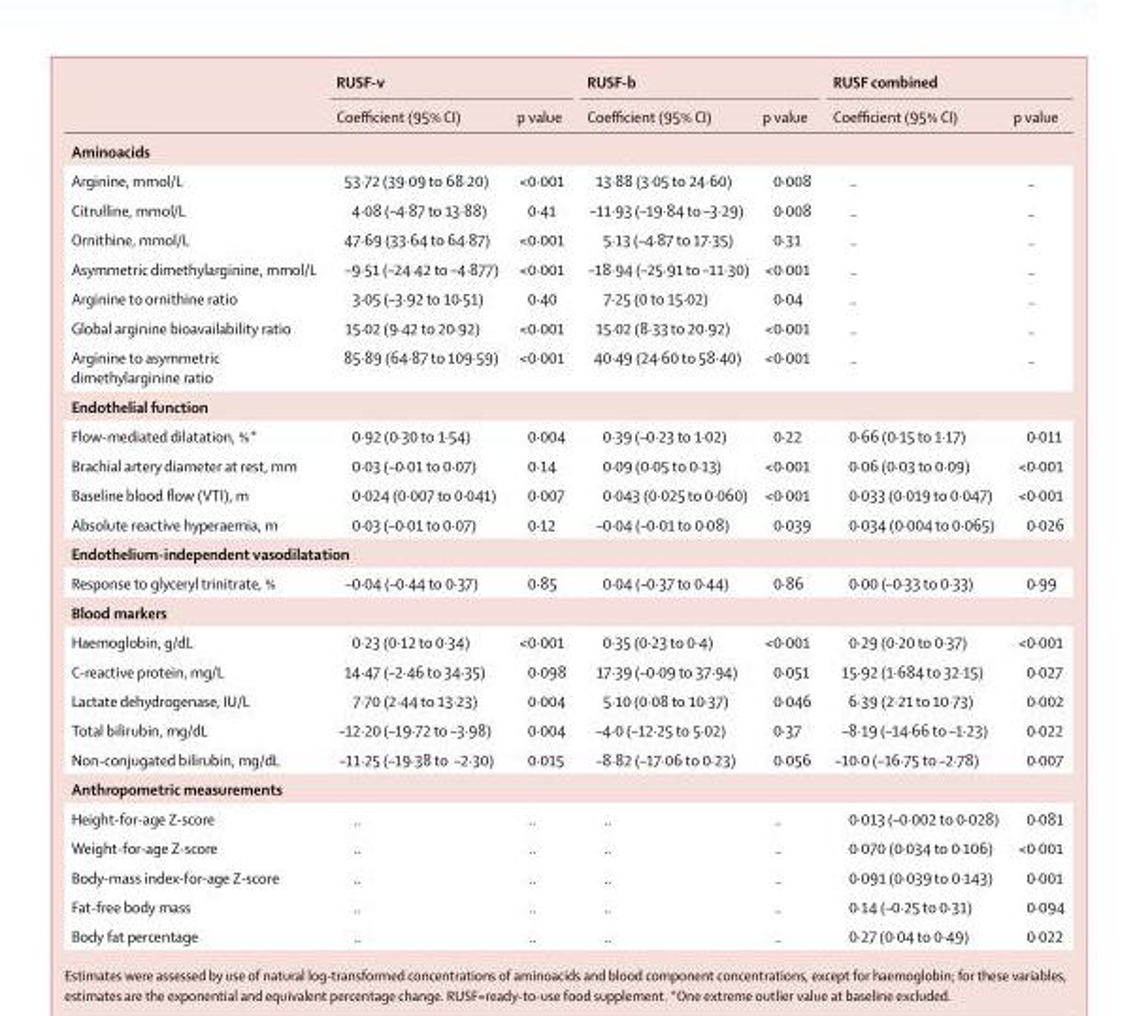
<table><thead><tr><td rowspan="2"></td><td colspan="2">RUSF-v</td><td colspan="2">RUSF-b</td><td colspan="2">RUSF combined</td></tr><tr><td>Coefficient (95% CI)</td><td>p value</td><td>Coefficient (95% CI)</td><td>p value</td><td>Coefficient (95% CI)</td><td>p value</td></tr></thead><tbody><tr><td colspan="7">Aminoacids</td></tr><tr><td>Arginine, mmol/L</td><td>53·72 (39·09 to 68·20)</td><td>&lt;0·001</td><td>13·88 (3·05 to 24·60)</td><td>0·008</td><td>..</td><td>..</td></tr><tr><td>Citrulline, mmol/L</td><td>4·08 (–4·87 to 13·88)</td><td>0·41</td><td>–11·93 (–19·84 to –3·29)</td><td>0·008</td><td>..</td><td>..</td></tr><tr><td>Ornithine, mmol/L</td><td>47·69 (33·64 to 64·87)</td><td>&lt;0·001</td><td>5·13 (–4·87 to 17·35)</td><td>0·31</td><td>..</td><td>..</td></tr><tr><td>Asymmetric dimethylarginine, mmol/L</td><td>–9·51 (–24·42 to –4·877)</td><td>&lt;0·001</td><td>–18·94 (–25·91 to –11·30)</td><td>&lt;0·001</td><td>..</td><td>..</td></tr><tr><td>Arginine to ornithine ratio</td><td>3·05 (–3·92 to 10·51)</td><td>0·40</td><td>7·25 (0 to 15·02)</td><td>0·04</td><td>..</td><td>..</td></tr><tr><td>Global arginine bioavailability ratio</td><td>15·02 (9·42 to 20·92)</td><td>&lt;0·001</td><td>15·02 (8·33 to 20·92)</td><td>&lt;0·001</td><td>..</td><td>..</td></tr><tr><td>Arginine to asymmetric dimethylarginine ratio</td><td>85·89 (64·87 to 109·59)</td><td>&lt;0·001</td><td>40·49 (24·60 to 58·40)</td><td>&lt;0·001</td><td>..</td><td>..</td></tr><tr><td colspan="7">Endothelial function</td></tr><tr><td>Flow-mediated dilatation, %*</td><td>0·92 (0·30 to 1·54)</td><td>0·004</td><td>0·39 (–0·23 to 1·02)</td><td>0·22</td><td>0·66 (0·15 to 1·17)</td><td>0·011</td></tr><tr><td>Brachial artery diameter at rest, mm</td><td>0·03 (–0·01 to 0·07)</td><td>0·14</td><td>0·09 (0·05 to 0·13)</td><td>&lt;0·001</td><td>0·06 (0·03 to 0·09)</td><td>&lt;0·001</td></tr><tr><td>Baseline blood flow (VTI), m</td><td>0·024 (0·007 to 0·041)</td><td>0·007</td><td>0·043 (0·025 to 0·060)</td><td>&lt;0·001</td><td>0·033 (0·019 to 0·047)</td><td>&lt;0·001</td></tr><tr><td>Absolute reactive hyperaemia, m</td><td>0·03 (–0·01 to 0·07)</td><td>0·12</td><td>–0·04 (–0·01 to 0·08)</td><td>0·039</td><td>0·034 (0·004 to 0·065)</td><td>0·026</td></tr><tr><td colspan="7">Endothelium-independent vasodilatation</td></tr><tr><td>Response to glyceryl trinitrate, %</td><td>–0·04 (–0·44 to 0·37)</td><td>0·85</td><td>0·04 (–0·37 to 0·44)</td><td>0·86</td><td>0·00 (–0·33 to 0·33)</td><td>0·99</td></tr><tr><td colspan="7">Blood markers</td></tr><tr><td>Haemoglobin, g/dL</td><td>0·23 (0·12 to 0·34)</td><td>&lt;0·001</td><td>0·35 (0·23 to 0·4)</td><td>&lt;0·001</td><td>0·29 (0·20 to 0·37)</td><td>&lt;0·001</td></tr><tr><td>C-reactive protein, mg/L</td><td>14·47 (–2·46 to 34·35)</td><td>0·098</td><td>17·39 (–0·09 to 37·94)</td><td>0·051</td><td>15·92 (1·684 to 32·15)</td><td>0·027</td></tr><tr><td>Lactate dehydrogenase, IU/L</td><td>7·70 (2·44 to 13·23)</td><td>0·004</td><td>5·10 (0·08 to 10·37)</td><td>0·046</td><td>6·39 (2·21 to 10·73)</td><td>0·002</td></tr><tr><td>Total bilirubin, mg/dL</td><td>–12·20 (–19·72 to –3·98)</td><td>0·004</td><td>–4·0 (–12·25 to 5·02)</td><td>0·37</td><td>–8·19 (–14·66 to –1·23)</td><td>0·022</td></tr><tr><td>Non-conjugated bilirubin, mg/dL</td><td>–11·25 (–19·38 to –2·30)</td><td>0·015</td><td>–8·82 (–17·06 to 0·23)</td><td>0·056</td><td>–10·0 (–16·75 to –2·78)</td><td>0·007</td></tr><tr><td colspan="7">Anthropometric measurements</td></tr><tr><td>Height-for-age Z-score</td><td>..</td><td>..</td><td>..</td><td>..</td><td>0·013 (–0·002 to 0·028)</td><td>0·081</td></tr><tr><td>Weight-for-age Z-score</td><td>..</td><td>..</td><td>..</td><td>..</td><td>0·070 (0·034 to 0·106)</td><td>&lt;0·001</td></tr><tr><td>Body-mass index-for-age Z-score</td><td>..</td><td>..</td><td>..</td><td>..</td><td>0·091 (0·039 to 0·143)</td><td>0·001</td></tr><tr><td>Fat-free body mass</td><td>..</td><td>..</td><td>..</td><td>..</td><td>0·14 (–0·25 to 0·31)</td><td>0·094</td></tr><tr><td>Body fat percentage</td><td>..</td><td>..</td><td>..</td><td>..</td><td>0·27 (0·04 to 0·49)</td><td>0·022</td></tr></tbody></table>